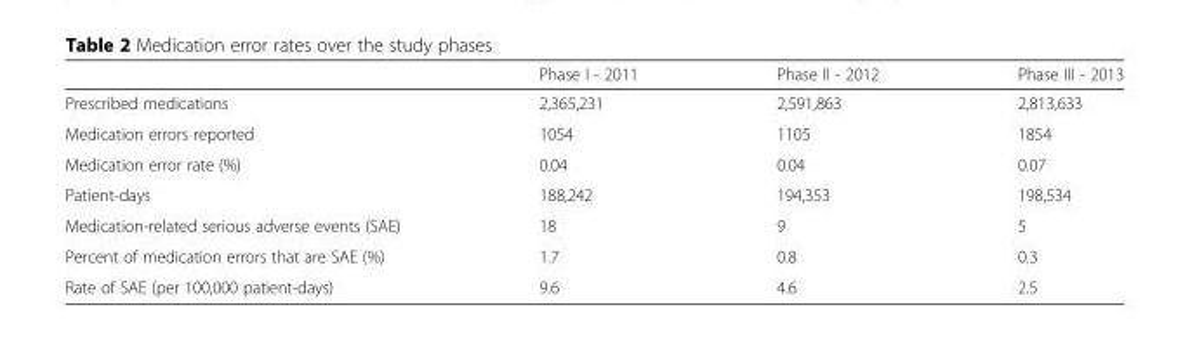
<table><thead><tr><td></td><td>Phase I - 2011</td><td>Phase II - 2012</td><td>Phase III - 2013</td></tr></thead><tbody><tr><td>Prescribed medications</td><td>2,365,231</td><td>2,591,863</td><td>2,813,633</td></tr><tr><td>Medication errors reported</td><td>1054</td><td>1105</td><td>1854</td></tr><tr><td>Medication error rate (%)</td><td>0.04</td><td>0.04</td><td>0.07</td></tr><tr><td>Patient-days</td><td>188,242</td><td>194,353</td><td>198,534</td></tr><tr><td>Medication-related serious adverse events (SAE)</td><td>18</td><td>9</td><td>5</td></tr><tr><td>Percent of medication errors that are SAE (%)</td><td>1.7</td><td>0.8</td><td>0.3</td></tr><tr><td>Rate of SAE (per 100,000 patient-days)</td><td>9.6</td><td>4.6</td><td>2.5</td></tr></tbody></table>